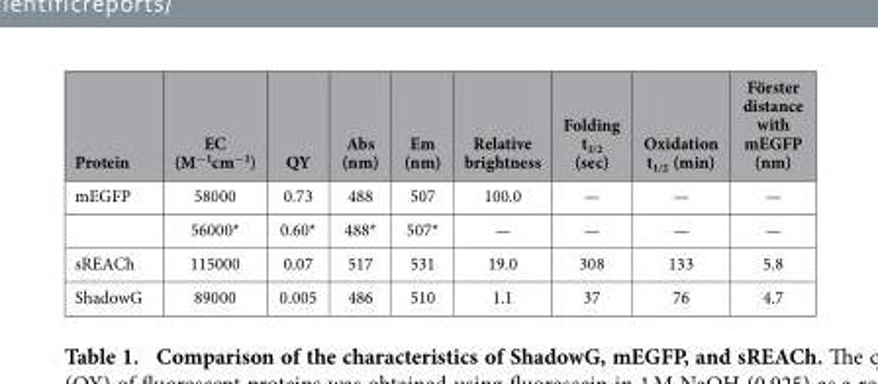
<table><thead><tr><td>Protein</td><td>EC (M<sup>−1</sup>cm<sup>−1</sup>)</td><td>QY</td><td>Abs (nm)</td><td>Em (nm)</td><td>Relative brightness</td><td>Folding t<sub>1/2</sub> (sec)</td><td>Oxidation t<sub>1/2</sub> (min)</td><td>Förster distance with mEGFP (nm)</td></tr></thead><tbody><tr><td rowspan="2">mEGFP</td><td>58000</td><td>0.73</td><td>488</td><td>507</td><td>100.0</td><td>—</td><td>—</td><td>—</td></tr><tr><td>56000*</td><td>0.60*</td><td>488*</td><td>507*</td><td>—</td><td>—</td><td>—</td><td>—</td></tr><tr><td>sREACh</td><td>115000</td><td>0.07</td><td>517</td><td>531</td><td>19.0</td><td>308</td><td>133</td><td>5.8</td></tr><tr><td>ShadowG</td><td>89000</td><td>0.005</td><td>486</td><td>510</td><td>1.1</td><td>37</td><td>76</td><td>4.7</td></tr></tbody></table>